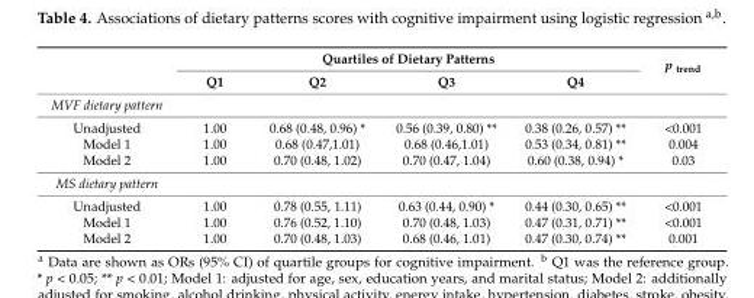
<table><thead><tr><td rowspan="2"></td><td colspan="4">Quartiles of Dietary Patterns</td><td rowspan="2">p <sub>trend</sub></td></tr><tr><td>Q1</td><td>Q2</td><td>Q3</td><td>Q4</td></tr></thead><tbody><tr><td colspan="6">MVF dietary pattern</td></tr><tr><td>Unadjusted</td><td>1.00</td><td>0.68 (0.48, 0.96) *</td><td>0.56 (0.39, 0.80) **</td><td>0.38 (0.26, 0.57) **</td><td>&lt;0.001</td></tr><tr><td>Model 1</td><td>1.00</td><td>0.68 (0.47,1.01)</td><td>0.68 (0.46,1.01)</td><td>0.53 (0.34, 0.81) **</td><td>0.004</td></tr><tr><td>Model 2</td><td>1.00</td><td>0.70 (0.48, 1.02)</td><td>0.70 (0.47, 1.04)</td><td>0.60 (0.38, 0.94) *</td><td>0.03</td></tr><tr><td colspan="6">MS dietary pattern</td></tr><tr><td>Unadjusted</td><td>1.00</td><td>0.78 (0.55, 1.11)</td><td>0.63 (0.44, 0.90) *</td><td>0.44 (0.30, 0.65) **</td><td>&lt;0.001</td></tr><tr><td>Model 1</td><td>1.00</td><td>0.76 (0.52, 1.10)</td><td>0.70 (0.48, 1.03)</td><td>0.47 (0.31, 0.71) **</td><td>&lt;0.001</td></tr><tr><td>Model 2</td><td>1.00</td><td>0.70 (0.48, 1.03)</td><td>0.68 (0.46, 1.01)</td><td>0.47 (0.30, 0.74) **</td><td>0.001</td></tr></tbody></table>